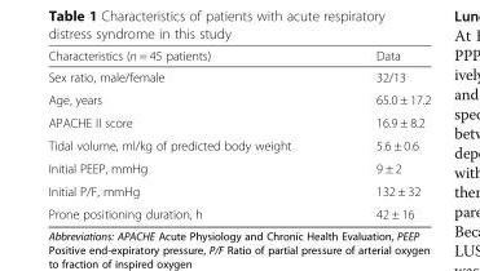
<table><thead><tr><td>Characteristics (n = 45 patients)</td><td>Data</td></tr></thead><tbody><tr><td>Sex ratio, male/female</td><td>32/13</td></tr><tr><td>Age, years</td><td>65.0 ± 17.2</td></tr><tr><td>APACHE II score</td><td>16.9 ± 8.2</td></tr><tr><td>Tidal volume, ml/kg of predicted body weight</td><td>5.6 ± 0.6</td></tr><tr><td>Initial PEEP, mmHg</td><td>9 ± 2</td></tr><tr><td>Initial P/F, mmHg</td><td>132 ± 32</td></tr><tr><td>Prone positioning duration, h</td><td>42 ± 16</td></tr></tbody></table>